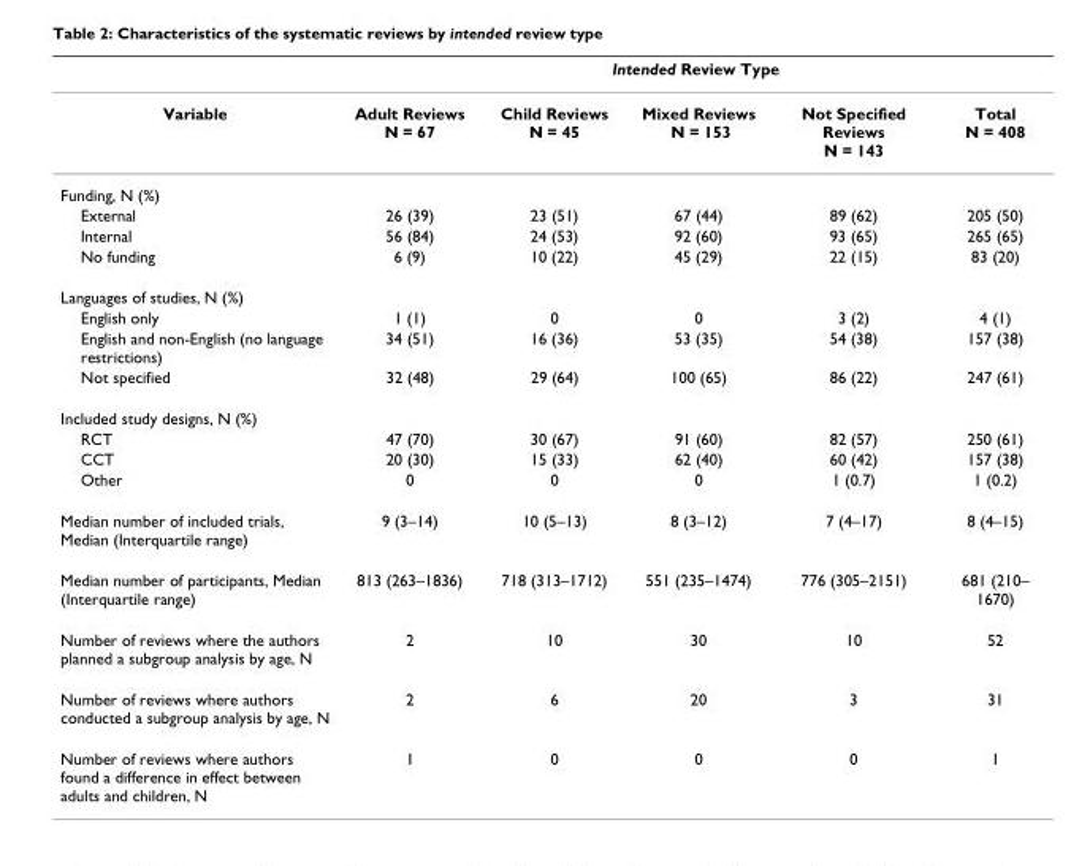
<table><thead><tr><td rowspan="2">Variable</td><td colspan="5">Intended Review Type</td></tr><tr><td>Adult Reviews N = 67</td><td>Child Reviews N = 45</td><td>Mixed Reviews N = 153</td><td>Not Specified Reviews N = 143</td><td>Total N = 408</td></tr></thead><tbody><tr><td colspan="6">Funding, N (%)</td></tr><tr><td>External</td><td>26 (39)</td><td>23 (51)</td><td>67 (44)</td><td>89 (62)</td><td>205 (50)</td></tr><tr><td>Internal</td><td>56 (84)</td><td>24 (53)</td><td>92 (60)</td><td>93 (65)</td><td>265 (65)</td></tr><tr><td>No funding</td><td>6 (9)</td><td>10 (22)</td><td>45 (29)</td><td>22 (15)</td><td>83 (20)</td></tr><tr><td colspan="6">Languages of studies, N (%)</td></tr><tr><td>English only</td><td>1 (1)</td><td>0</td><td>0</td><td>3 (2)</td><td>4 (1)</td></tr><tr><td>English and non-English (no language restrictions)</td><td>34 (51)</td><td>16 (36)</td><td>53 (35)</td><td>54 (38)</td><td>157 (38)</td></tr><tr><td>Not specified</td><td>32 (48)</td><td>29 (64)</td><td>100 (65)</td><td>86 (22)</td><td>247 (61)</td></tr><tr><td colspan="6">Included study designs, N (%)</td></tr><tr><td>RCT</td><td>47 (70)</td><td>30 (67)</td><td>91 (60)</td><td>82 (57)</td><td>250 (61)</td></tr><tr><td>CCT</td><td>20 (30)</td><td>15 (33)</td><td>62 (40)</td><td>60 (42)</td><td>157 (38)</td></tr><tr><td>Other</td><td>0</td><td>0</td><td>0</td><td>1 (0.7)</td><td>1 (0.2)</td></tr><tr><td>Median number of included trials, Median (Interquartile range)</td><td>9 (3–14)</td><td>10 (5–13)</td><td>8 (3–12)</td><td>7 (4–17)</td><td>8 (4–15)</td></tr><tr><td>Median number of participants, Median (Interquartile range)</td><td>813 (263–1836)</td><td>718 (313–1712)</td><td>551 (235–1474)</td><td>776 (305–2151)</td><td>681 (210– 1670)</td></tr><tr><td>Number of reviews where the authors planned a subgroup analysis by age, N</td><td>2</td><td>10</td><td>30</td><td>10</td><td>52</td></tr><tr><td>Number of reviews where authors conducted a subgroup analysis by age, N</td><td>2</td><td>6</td><td>20</td><td>3</td><td>31</td></tr><tr><td>Number of reviews where authors found a difference in effect between adults and children, N</td><td>1</td><td>0</td><td>0</td><td>0</td><td>1</td></tr></tbody></table>